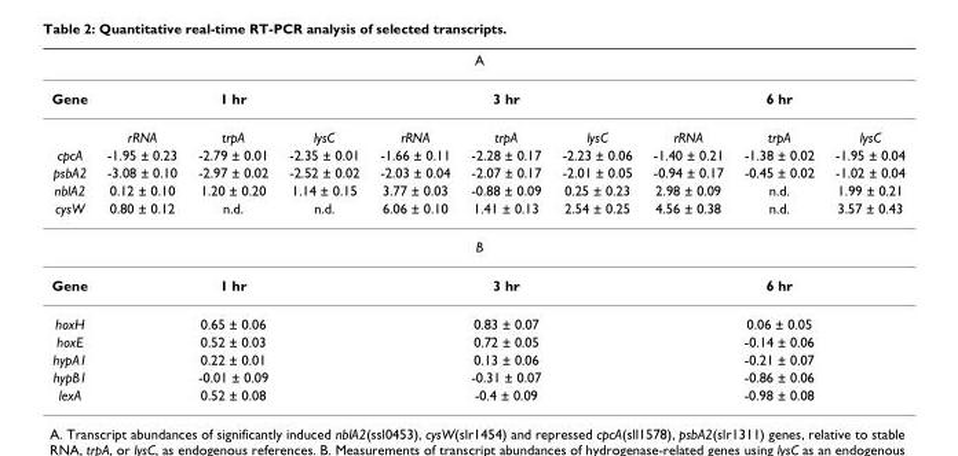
<table><thead><tr><td colspan="10">A</td></tr><tr><td rowspan="2">Gene</td><td colspan="3">1 hr</td><td colspan="3">3 hr</td><td colspan="3">6 hr</td></tr><tr><td>rRNA</td><td>trpA</td><td>lysC</td><td>rRNA</td><td>trpA</td><td>lysC</td><td>rRNA</td><td>trpA</td><td>lysC</td></tr></thead><tbody><tr><td>cpcA</td><td>-1.95 ± 0.23</td><td>-2.79 ± 0.01</td><td>-2.35 ± 0.01</td><td>-1.66 ± 0.11</td><td>-2.28 ± 0.17</td><td>-2.23 ± 0.06</td><td>-1.40 ± 0.21</td><td>-1.38 ± 0.02</td><td>-1.95 ± 0.04</td></tr><tr><td>psbA2</td><td>-3.08 ± 0.10</td><td>-2.97 ± 0.02</td><td>-2.52 ± 0.02</td><td>-2.03 ± 0.04</td><td>-2.07 ± 0.17</td><td>-2.01 ± 0.05</td><td>-0.94 ± 0.17</td><td>-0.45 ± 0.02</td><td>-1.02 ± 0.04</td></tr><tr><td>nblA2</td><td>0.12 ± 0.10</td><td>1.20 ± 0.20</td><td>1.14 ± 0.15</td><td>3.77 ± 0.03</td><td>-0.88 ± 0.09</td><td>0.25 ± 0.23</td><td>2.98 ± 0.09</td><td>n.d.</td><td>1.99 ± 0.21</td></tr><tr><td>cysW</td><td>0.80 ± 0.12</td><td>n.d.</td><td>n.d.</td><td>6.06 ± 0.10</td><td>1.41 ± 0.13</td><td>2.54 ± 0.25</td><td>4.56 ± 0.38</td><td>n.d.</td><td>3.57 ± 0.43</td></tr><tr><td colspan="10">B</td></tr><tr><td>Gene</td><td colspan="3">1 hr</td><td colspan="3">3 hr</td><td colspan="3">6 hr</td></tr><tr><td>hoxH</td><td colspan="3">0.65 ± 0.06</td><td colspan="3">0.83 ± 0.07</td><td colspan="3">0.06 ± 0.05</td></tr><tr><td>hoxE</td><td colspan="3">0.52 ± 0.03</td><td colspan="3">0.72 ± 0.05</td><td colspan="3">-0.14 ± 0.06</td></tr><tr><td>hypA1</td><td colspan="3">0.22 ± 0.01</td><td colspan="3">0.13 ± 0.06</td><td colspan="3">-0.21 ± 0.07</td></tr><tr><td>hypB1</td><td colspan="3">-0.01 ± 0.09</td><td colspan="3">-0.31 ± 0.07</td><td colspan="3">-0.86 ± 0.06</td></tr><tr><td>lexA</td><td colspan="3">0.52 ± 0.08</td><td colspan="3">-0.4 ± 0.09</td><td colspan="3">-0.98 ± 0.08</td></tr></tbody></table>